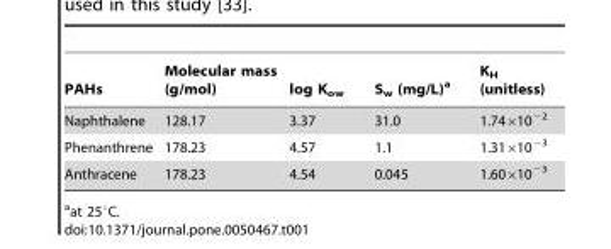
<table><thead><tr><td>PAHs</td><td>Molecular mass (g/mol)</td><td>log K<sub>ow</sub></td><td>S<sub>w</sub> (mg/L)<sup>a</sup></td><td>K<sub>H</sub> (unitless)</td></tr></thead><tbody><tr><td>Naphthalene</td><td>128.17</td><td>3.37</td><td>31.0</td><td>1.74×10<sup>−2</sup></td></tr><tr><td>Phenanthrene</td><td>178.23</td><td>4.57</td><td>1.1</td><td>1.31×10<sup>−3</sup></td></tr><tr><td>Anthracene</td><td>178.23</td><td>4.54</td><td>0.045</td><td>1.60×10<sup>−3</sup></td></tr></tbody></table>